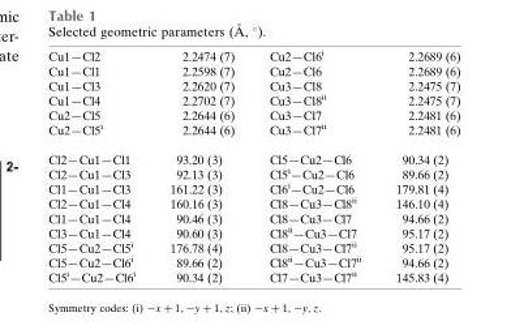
<table><tbody><tr><td>Cu1—Cl2</td><td>2.2474 (7)</td><td>Cu2—Cl6<sup>i</sup></td><td>2.2689 (6)</td></tr><tr><td>Cu1—Cl1</td><td>2.2598 (7)</td><td>Cu2—Cl6</td><td>2.2689 (6)</td></tr><tr><td>Cu1—Cl3</td><td>2.2620 (7)</td><td>Cu3—Cl8</td><td>2.2475 (7)</td></tr><tr><td>Cu1—Cl4</td><td>2.2702 (7)</td><td>Cu3—Cl8<sup>ii</sup></td><td>2.2475 (7)</td></tr><tr><td>Cu2—Cl5</td><td>2.2644 (6)</td><td>Cu3—Cl7</td><td>2.2481 (6)</td></tr><tr><td>Cu2—Cl5<sup>i</sup></td><td>2.2644 (6)</td><td>Cu3—Cl7<sup>ii</sup></td><td>2.2481 (6)</td></tr><tr><td>Cl2—Cu1—Cl1</td><td>93.20 (3)</td><td>Cl5—Cu2—Cl6</td><td>90.34 (2)</td></tr><tr><td>Cl2—Cu1—Cl3</td><td>92.13 (3)</td><td>Cl5<sup>i</sup>—Cu2—Cl6</td><td>89.66 (2)</td></tr><tr><td>Cl1—Cu1—Cl3</td><td>161.22 (3)</td><td>Cl6<sup>i</sup>—Cu2—Cl6</td><td>179.81 (4)</td></tr><tr><td>Cl2—Cu1—Cl4</td><td>160.16 (3)</td><td>Cl8—Cu3—Cl8<sup>ii</sup></td><td>146.10 (4)</td></tr><tr><td>Cl1—Cu1—Cl4</td><td>90.46 (3)</td><td>Cl8—Cu3—Cl7</td><td>94.66 (2)</td></tr><tr><td>Cl3—Cu1—Cl4</td><td>90.60 (3)</td><td>Cl8<sup>ii</sup>—Cu3—Cl7</td><td>95.17 (2)</td></tr><tr><td>Cl5—Cu2—Cl5<sup>i</sup></td><td>176.78 (4)</td><td>Cl8—Cu3—Cl7<sup>ii</sup></td><td>95.17 (2)</td></tr><tr><td>Cl5—Cu2—Cl6<sup>i</sup></td><td>89.66 (2)</td><td>Cl8<sup>ii</sup>—Cu3—Cl7<sup>ii</sup></td><td>94.66 (2)</td></tr><tr><td>Cl5<sup>i</sup>—Cu2—Cl6<sup>i</sup></td><td>90.34 (2)</td><td>Cl7—Cu3—Cl7<sup>ii</sup></td><td>145.83 (4)</td></tr></tbody></table>